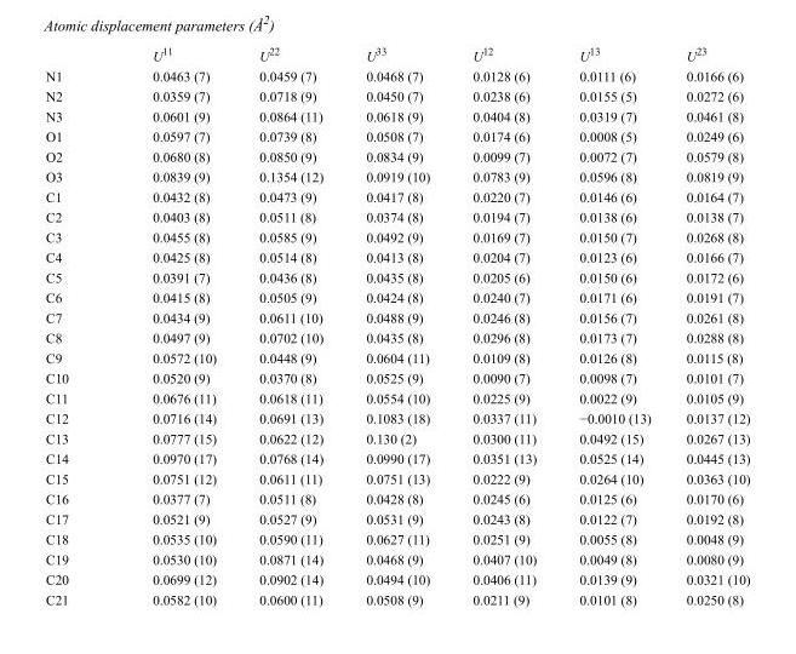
<table><thead><tr><td></td><td>U<sup>11</sup></td><td>U<sup>22</sup></td><td>U<sup>33</sup></td><td>U<sup>12</sup></td><td>U<sup>13</sup></td><td>U<sup>23</sup></td></tr></thead><tbody><tr><td>N1</td><td>0.0463 (7)</td><td>0.0459 (7)</td><td>0.0468 (7)</td><td>0.0128 (6)</td><td>0.0111 (6)</td><td>0.0166 (6)</td></tr><tr><td>N2</td><td>0.0359 (7)</td><td>0.0718 (9)</td><td>0.0450 (7)</td><td>0.0238 (6)</td><td>0.0155 (5)</td><td>0.0272 (6)</td></tr><tr><td>N3</td><td>0.0601 (9)</td><td>0.0864 (11)</td><td>0.0618 (9)</td><td>0.0404 (8)</td><td>0.0319 (7)</td><td>0.0461 (8)</td></tr><tr><td>O1</td><td>0.0597 (7)</td><td>0.0739 (8)</td><td>0.0508 (7)</td><td>0.0174 (6)</td><td>0.0008 (5)</td><td>0.0249 (6)</td></tr><tr><td>O2</td><td>0.0680 (8)</td><td>0.0850 (9)</td><td>0.0834 (9)</td><td>0.0099 (7)</td><td>0.0072 (7)</td><td>0.0579 (8)</td></tr><tr><td>O3</td><td>0.0839 (9)</td><td>0.1354 (12)</td><td>0.0919 (10)</td><td>0.0783 (9)</td><td>0.0596 (8)</td><td>0.0819 (9)</td></tr><tr><td>C1</td><td>0.0432 (8)</td><td>0.0473 (9)</td><td>0.0417 (8)</td><td>0.0220 (7)</td><td>0.0146 (6)</td><td>0.0164 (7)</td></tr><tr><td>C2</td><td>0.0403 (8)</td><td>0.0511 (8)</td><td>0.0374 (8)</td><td>0.0194 (7)</td><td>0.0138 (6)</td><td>0.0138 (7)</td></tr><tr><td>C3</td><td>0.0455 (8)</td><td>0.0585 (9)</td><td>0.0492 (9)</td><td>0.0169 (7)</td><td>0.0150 (7)</td><td>0.0268 (8)</td></tr><tr><td>C4</td><td>0.0425 (8)</td><td>0.0514 (8)</td><td>0.0413 (8)</td><td>0.0204 (7)</td><td>0.0123 (6)</td><td>0.0166 (7)</td></tr><tr><td>C5</td><td>0.0391 (7)</td><td>0.0436 (8)</td><td>0.0435 (8)</td><td>0.0205 (6)</td><td>0.0150 (6)</td><td>0.0172 (6)</td></tr><tr><td>C6</td><td>0.0415 (8)</td><td>0.0505 (9)</td><td>0.0424 (8)</td><td>0.0240 (7)</td><td>0.0171 (6)</td><td>0.0191 (7)</td></tr><tr><td>C7</td><td>0.0434 (9)</td><td>0.0611 (10)</td><td>0.0488 (9)</td><td>0.0246 (8)</td><td>0.0156 (7)</td><td>0.0261 (8)</td></tr><tr><td>C8</td><td>0.0497 (9)</td><td>0.0702 (10)</td><td>0.0435 (8)</td><td>0.0296 (8)</td><td>0.0173 (7)</td><td>0.0288 (8)</td></tr><tr><td>C9</td><td>0.0572 (10)</td><td>0.0448 (9)</td><td>0.0604 (11)</td><td>0.0109 (8)</td><td>0.0126 (8)</td><td>0.0115 (8)</td></tr><tr><td>C10</td><td>0.0520 (9)</td><td>0.0370 (8)</td><td>0.0525 (9)</td><td>0.0090 (7)</td><td>0.0098 (7)</td><td>0.0101 (7)</td></tr><tr><td>C11</td><td>0.0676 (11)</td><td>0.0618 (11)</td><td>0.0554 (10)</td><td>0.0225 (9)</td><td>0.0022 (9)</td><td>0.0105 (9)</td></tr><tr><td>C12</td><td>0.0716 (14)</td><td>0.0691 (13)</td><td>0.1083 (18)</td><td>0.0337 (11)</td><td>−0.0010 (13)</td><td>0.0137 (12)</td></tr><tr><td>C13</td><td>0.0777 (15)</td><td>0.0622 (12)</td><td>0.130 (2)</td><td>0.0300 (11)</td><td>0.0492 (15)</td><td>0.0267 (13)</td></tr><tr><td>C14</td><td>0.0970 (17)</td><td>0.0768 (14)</td><td>0.0990 (17)</td><td>0.0351 (13)</td><td>0.0525 (14)</td><td>0.0445 (13)</td></tr><tr><td>C15</td><td>0.0751 (12)</td><td>0.0611 (11)</td><td>0.0751 (13)</td><td>0.0222 (9)</td><td>0.0264 (10)</td><td>0.0363 (10)</td></tr><tr><td>C16</td><td>0.0377 (7)</td><td>0.0511 (8)</td><td>0.0428 (8)</td><td>0.0245 (6)</td><td>0.0125 (6)</td><td>0.0170 (6)</td></tr><tr><td>C17</td><td>0.0521 (9)</td><td>0.0527 (9)</td><td>0.0531 (9)</td><td>0.0243 (8)</td><td>0.0122 (7)</td><td>0.0192 (8)</td></tr><tr><td>C18</td><td>0.0535 (10)</td><td>0.0590 (11)</td><td>0.0627 (11)</td><td>0.0251 (9)</td><td>0.0055 (8)</td><td>0.0048 (9)</td></tr><tr><td>C19</td><td>0.0530 (10)</td><td>0.0871 (14)</td><td>0.0468 (9)</td><td>0.0407 (10)</td><td>0.0049 (8)</td><td>0.0080 (9)</td></tr><tr><td>C20</td><td>0.0699 (12)</td><td>0.0902 (14)</td><td>0.0494 (10)</td><td>0.0406 (11)</td><td>0.0139 (9)</td><td>0.0321 (10)</td></tr><tr><td>C21</td><td>0.0582 (10)</td><td>0.0600 (11)</td><td>0.0508 (9)</td><td>0.0211 (9)</td><td>0.0101 (8)</td><td>0.0250 (8)</td></tr></tbody></table>